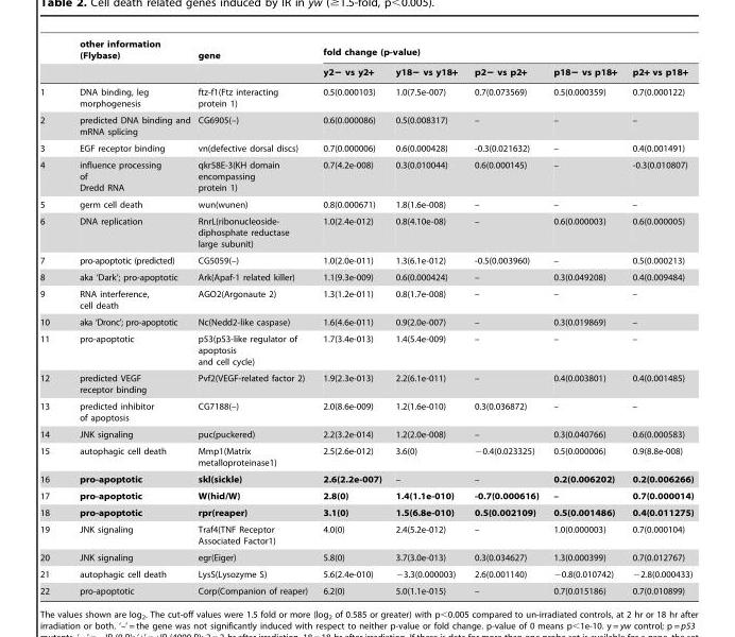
<table><thead><tr><td rowspan="2"></td><td rowspan="2">other information (Flybase)</td><td rowspan="2">gene</td><td colspan="5">fold change (p-value)</td></tr><tr><td>y2− vs y2+</td><td>y18− vs y18+</td><td>p2− vs p2+</td><td>p18− vs p18+</td><td>p2+ vs p18+</td></tr></thead><tbody><tr><td>1</td><td>DNA binding, leg morphogenesis</td><td>ftz-f1(Ftz interacting protein 1)</td><td>0.5(0.000103)</td><td>1.0(7.5e-007)</td><td>0.7(0.073569)</td><td>0.5(0.000359)</td><td>0.7(0.000122)</td></tr><tr><td>2</td><td>predicted DNA binding and mRNA splicing</td><td>CG6905(–)</td><td>0.6(0.000086)</td><td>0.5(0.008317)</td><td>–</td><td>–</td><td>–</td></tr><tr><td>3</td><td>EGF receptor binding</td><td>vn(defective dorsal discs)</td><td>0.7(0.000006)</td><td>0.6(0.000428)</td><td>-0.3(0.021632)</td><td>–</td><td>0.4(0.001491)</td></tr><tr><td>4</td><td>influence processing of Dredd RNA</td><td>qkr58E-3(KH domain encompassing protein 1)</td><td>0.7(4.2e-008)</td><td>0.3(0.010044)</td><td>0.6(0.000145)</td><td>–</td><td>-0.3(0.010807)</td></tr><tr><td>5</td><td>germ cell death</td><td>wun(wunen)</td><td>0.8(0.000671)</td><td>1.8(1.6e-008)</td><td>–</td><td>–</td><td>–</td></tr><tr><td>6</td><td>DNA replication</td><td>RnrL(ribonucleoside- diphosphate reductase large subunit)</td><td>1.0(2.4e-012)</td><td>0.8(4.10e-08)</td><td>–</td><td>0.6(0.000003)</td><td>0.6(0.000005)</td></tr><tr><td>7</td><td>pro-apoptotic (predicted)</td><td>CG5059(–)</td><td>1.0(2.0e-011)</td><td>1.3(6.1e-012)</td><td>-0.5(0.003960)</td><td>–</td><td>0.5(0.000213)</td></tr><tr><td>8</td><td>aka ‘Dark’; pro-apoptotic</td><td>Ark(Apaf-1 related killer)</td><td>1.1(9.3e-009)</td><td>0.6(0.000424)</td><td>–</td><td>0.3(0.049208)</td><td>0.4(0.009484)</td></tr><tr><td>9</td><td>RNA interference, cell death</td><td>AGO2(Argonaute 2)</td><td>1.3(1.2e-011)</td><td>0.8(1.7e-008)</td><td>–</td><td>–</td><td>–</td></tr><tr><td>10</td><td>aka ‘Dronc’; pro-apoptotic</td><td>Nc(Nedd2-like caspase)</td><td>1.6(4.6e-011)</td><td>0.9(2.0e-007)</td><td>–</td><td>0.3(0.019869)</td><td>–</td></tr><tr><td>11</td><td>pro-apoptotic</td><td>p53(p53-like regulator of apoptosis and cell cycle)</td><td>1.7(3.4e-013)</td><td>1.4(5.4e-009)</td><td>–</td><td>–</td><td>–</td></tr><tr><td>12</td><td>predicted VEGF receptor binding</td><td>Pvf2(VEGF-related factor 2)</td><td>1.9(2.3e-013)</td><td>2.2(6.1e-011)</td><td>–</td><td>0.4(0.003801)</td><td>0.4(0.001485)</td></tr><tr><td>13</td><td>predicted inhibitor of apoptosis</td><td>CG7188(–)</td><td>2.0(8.6e-009)</td><td>1.2(1.6e-010)</td><td>0.3(0.036872)</td><td>–</td><td>–</td></tr><tr><td>14</td><td>JNK signaling</td><td>puc(puckered)</td><td>2.2(3.2e-014)</td><td>1.2(2.0e-008)</td><td>–</td><td>0.3(0.040766)</td><td>0.6(0.000583)</td></tr><tr><td>15</td><td>autophagic cell death</td><td>Mmp1(Matrix metalloproteinase1)</td><td>2.5(2.6e-012)</td><td>3.6(0)</td><td>−0.4(0.023325)</td><td>0.5(0.000006)</td><td>0.9(8.8e-008)</td></tr><tr><td>16</td><td>pro-apoptotic</td><td>skl(sickle)</td><td>2.6(2.2e-007)</td><td>–</td><td>–</td><td>0.2(0.006202)</td><td>0.2(0.006266)</td></tr><tr><td>17</td><td>pro-apoptotic</td><td>W(hid/W)</td><td>2.8(0)</td><td>1.4(1.1e-010)</td><td>-0.7(0.000616)</td><td>–</td><td>0.7(0.000014)</td></tr><tr><td>18</td><td>pro-apoptotic</td><td>rpr(reaper)</td><td>3.1(0)</td><td>1.5(6.8e-010)</td><td>0.5(0.002109)</td><td>0.5(0.001486)</td><td>0.4(0.011275)</td></tr><tr><td>19</td><td>JNK signaling</td><td>Traf4(TNF Receptor Associated Factor1)</td><td>4.0(0)</td><td>2.4(5.2e-012)</td><td>–</td><td>1.0(0.000003)</td><td>0.7(0.000104)</td></tr><tr><td>20</td><td>JNK signaling</td><td>egr(Eiger)</td><td>5.8(0)</td><td>3.7(3.0e-013)</td><td>0.3(0.034627)</td><td>1.3(0.000399)</td><td>0.7(0.012767)</td></tr><tr><td>21</td><td>autophagic cell death</td><td>LysS(Lysozyme S)</td><td>5.6(2.4e-010)</td><td>−3.3(0.000003)</td><td>2.6(0.001140)</td><td>−0.8(0.010742)</td><td>−2.8(0.000433)</td></tr><tr><td>22</td><td>pro-apoptotic</td><td>Corp(Companion of reaper)</td><td>6.2(0)</td><td>5.0(1.1e-015)</td><td>–</td><td>0.7(0.015186)</td><td>0.7(0.010899)</td></tr></tbody></table>